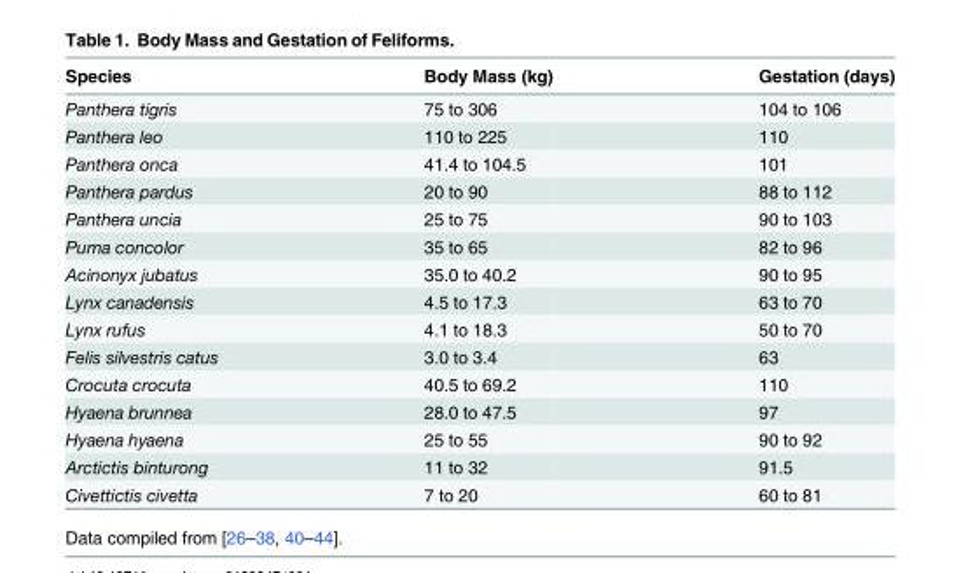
<table><thead><tr><td>Species</td><td>Body Mass (kg)</td><td>Gestation (days)</td></tr></thead><tbody><tr><td>Panthera tigris</td><td>75 to 306</td><td>104 to 106</td></tr><tr><td>Panthera leo</td><td>110 to 225</td><td>110</td></tr><tr><td>Panthera onca</td><td>41.4 to 104.5</td><td>101</td></tr><tr><td>Panthera pardus</td><td>20 to 90</td><td>88 to 112</td></tr><tr><td>Panthera uncia</td><td>25 to 75</td><td>90 to 103</td></tr><tr><td>Puma concolor</td><td>35 to 65</td><td>82 to 96</td></tr><tr><td>Acinonyx jubatus</td><td>35.0 to 40.2</td><td>90 to 95</td></tr><tr><td>Lynx canadensis</td><td>4.5 to 17.3</td><td>63 to 70</td></tr><tr><td>Lynx rufus</td><td>4.1 to 18.3</td><td>50 to 70</td></tr><tr><td>Felis silvestris catus</td><td>3.0 to 3.4</td><td>63</td></tr><tr><td>Crocuta crocuta</td><td>40.5 to 69.2</td><td>110</td></tr><tr><td>Hyaena brunnea</td><td>28.0 to 47.5</td><td>97</td></tr><tr><td>Hyaena hyaena</td><td>25 to 55</td><td>90 to 92</td></tr><tr><td>Arctictis binturong</td><td>11 to 32</td><td>91.5</td></tr><tr><td>Civettictis civetta</td><td>7 to 20</td><td>60 to 81</td></tr></tbody></table>